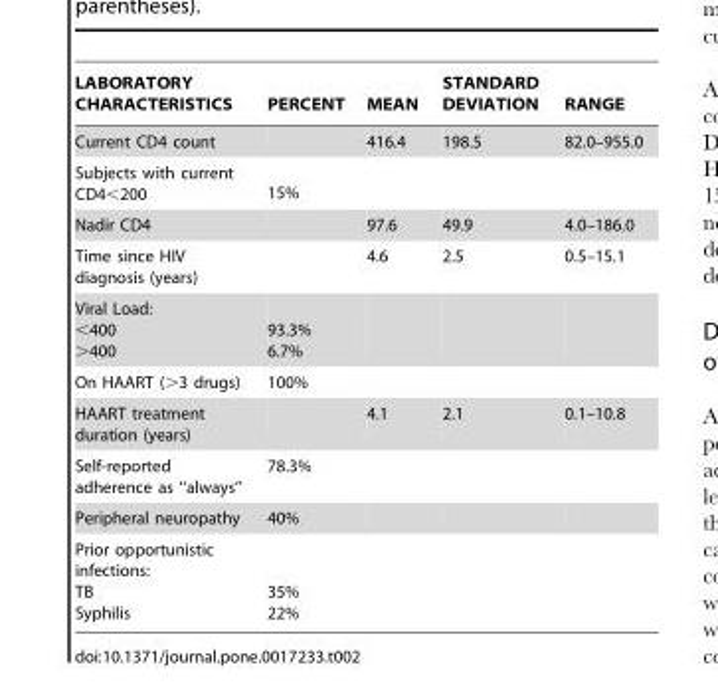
<table><thead><tr><td>LABORATORY CHARACTERISTICS</td><td>PERCENT</td><td>MEAN</td><td>STANDARD DEVIATION</td><td>RANGE</td></tr></thead><tbody><tr><td>Current CD4 count</td><td></td><td>416.4</td><td>198.5</td><td>82.0–955.0</td></tr><tr><td>Subjects with current CD4&lt;200</td><td>15%</td><td></td><td></td><td></td></tr><tr><td>Nadir CD4</td><td></td><td>97.6</td><td>49.9</td><td>4.0–186.0</td></tr><tr><td>Time since HIV diagnosis (years)</td><td></td><td>4.6</td><td>2.5</td><td>0.5–15.1</td></tr><tr><td>Viral Load: &lt;400 &gt;400</td><td>93.3% 6.7%</td><td></td><td></td><td></td></tr><tr><td>On HAART (&gt;3 drugs)</td><td>100%</td><td></td><td></td><td></td></tr><tr><td>HAART treatment duration (years)</td><td></td><td>4.1</td><td>2.1</td><td>0.1–10.8</td></tr><tr><td>Self-reported adherence as ‘‘always’’</td><td>78.3%</td><td></td><td></td><td></td></tr><tr><td>Peripheral neuropathy</td><td>40%</td><td></td><td></td><td></td></tr><tr><td>Prior opportunistic infections: TB Syphilis</td><td>35% 22%</td><td></td><td></td><td></td></tr></tbody></table>